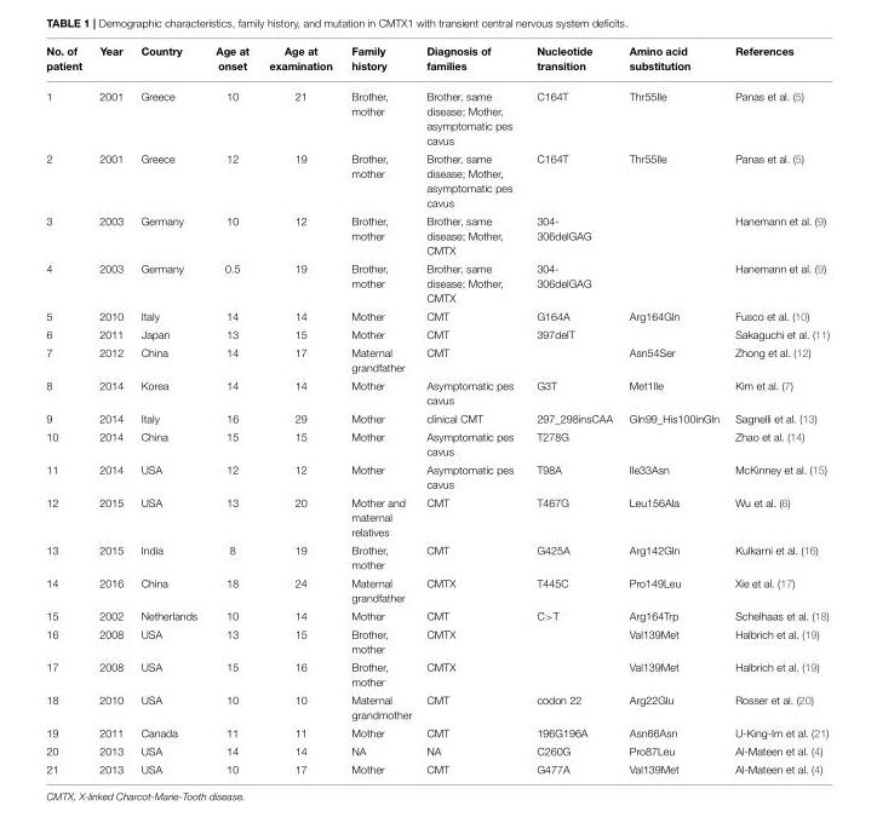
<table><thead><tr><td>No. of patient</td><td>Year</td><td>Country</td><td>Age at onset</td><td>Age at examination</td><td>Family history</td><td>Diagnosis of families</td><td>Nucleotide transition</td><td>Amino acid substitution</td><td>References</td></tr></thead><tbody><tr><td>1</td><td>2001</td><td>Greece</td><td>10</td><td>21</td><td>Brother, mother</td><td>Brother, same disease; Mother, asymptomatic pes cavus</td><td>C164T</td><td>Thr55Ile</td><td>Panas et al. (5)</td></tr><tr><td>2</td><td>2001</td><td>Greece</td><td>12</td><td>19</td><td>Brother, mother</td><td>Brother, same disease; Mother, asymptomatic pes cavus</td><td>C164T</td><td>Thr55Ile</td><td>Panas et al. (5)</td></tr><tr><td>3</td><td>2003</td><td>Germany</td><td>10</td><td>12</td><td>Brother, mother</td><td>Brother, same disease; Mother, CMTX</td><td>304- 306delGAG</td><td></td><td>Hanemann et al. (9)</td></tr><tr><td>4</td><td>2003</td><td>Germany</td><td>0.5</td><td>19</td><td>Brother, mother</td><td>Brother, same disease; Mother, CMTX</td><td>304- 306delGAG</td><td></td><td>Hanemann et al. (9)</td></tr><tr><td>5</td><td>2010</td><td>Italy</td><td>14</td><td>14</td><td>Mother</td><td>CMT</td><td>G164A</td><td>Arg164Gln</td><td>Fusco et al. (10)</td></tr><tr><td>6</td><td>2011</td><td>Japan</td><td>13</td><td>15</td><td>Mother</td><td>CMT</td><td>397delT</td><td></td><td>Sakaguchi et al. (11)</td></tr><tr><td>7</td><td>2012</td><td>China</td><td>14</td><td>17</td><td>Maternal grandfather</td><td>CMT</td><td></td><td>Asn54Ser</td><td>Zhong et al. (12)</td></tr><tr><td>8</td><td>2014</td><td>Korea</td><td>14</td><td>14</td><td>Mother</td><td>Asymptomatic pes cavus</td><td>G3T</td><td>Met1Ile</td><td>Kim et al. (7)</td></tr><tr><td>9</td><td>2014</td><td>Italy</td><td>16</td><td>29</td><td>Mother</td><td>clinical CMT</td><td>297_298insCAA</td><td>Gln99_His100inGln</td><td>Sagnelli et al. (13)</td></tr><tr><td>10</td><td>2014</td><td>China</td><td>15</td><td>15</td><td>Mother</td><td>Asymptomatic pes cavus</td><td>T278G</td><td></td><td>Zhao et al. (14)</td></tr><tr><td>11</td><td>2014</td><td>USA</td><td>12</td><td>12</td><td>Mother</td><td>Asymptomatic pes cavus</td><td>T98A</td><td>Ile33Asn</td><td>McKinney et al. (15)</td></tr><tr><td>12</td><td>2015</td><td>USA</td><td>13</td><td>20</td><td>Mother and maternal relatives</td><td>CMT</td><td>T467G</td><td>Leu156Ala</td><td>Wu et al. (6)</td></tr><tr><td>13</td><td>2015</td><td>India</td><td>8</td><td>19</td><td>Brother, mother</td><td>CMT</td><td>G425A</td><td>Arg142Gln</td><td>Kulkarni et al. (16)</td></tr><tr><td>14</td><td>2016</td><td>China</td><td>18</td><td>24</td><td>Maternal grandfather</td><td>CMTX</td><td>T445C</td><td>Pro149Leu</td><td>Xie et al. (17)</td></tr><tr><td>15</td><td>2002</td><td>Netherlands</td><td>10</td><td>14</td><td>Mother</td><td>CMT</td><td>C&gt;T</td><td>Arg164Trp</td><td>Schelhaas et al. (18)</td></tr><tr><td>16</td><td>2008</td><td>USA</td><td>13</td><td>15</td><td>Brother, mother</td><td>CMTX</td><td></td><td>Val139Met</td><td>Halbrich et al. (19)</td></tr><tr><td>17</td><td>2008</td><td>USA</td><td>15</td><td>16</td><td>Brother, mother</td><td>CMTX</td><td></td><td>Val139Met</td><td>Halbrich et al. (19)</td></tr><tr><td>18</td><td>2010</td><td>USA</td><td>10</td><td>10</td><td>Maternal grandmother</td><td>CMT</td><td>codon 22</td><td>Arg22Glu</td><td>Rosser et al. (20)</td></tr><tr><td>19</td><td>2011</td><td>Canada</td><td>11</td><td>11</td><td>Mother</td><td>CMT</td><td>196G196A</td><td>Asn66Asn</td><td>U-King-Im et al. (21)</td></tr><tr><td>20</td><td>2013</td><td>USA</td><td>14</td><td>14</td><td>NA</td><td>NA</td><td>C260G</td><td>Pro87Leu</td><td>Al-Mateen et al. (4)</td></tr><tr><td>21</td><td>2013</td><td>USA</td><td>10</td><td>17</td><td>Mother</td><td>CMT</td><td>G477A</td><td>Val139Met</td><td>Al-Mateen et al. (4)</td></tr></tbody></table>